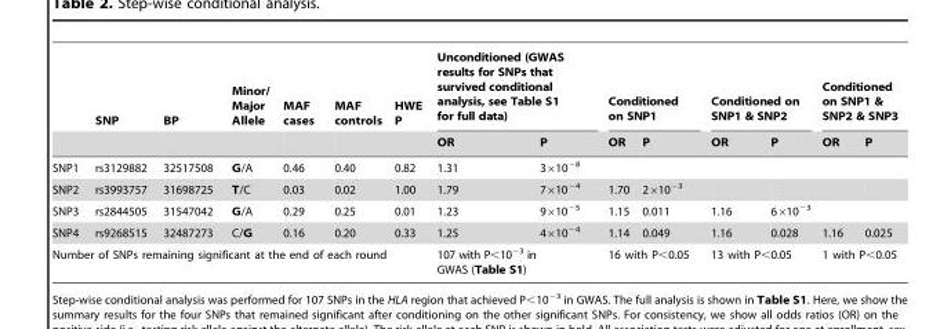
<table><thead><tr><td rowspan="2"></td><td rowspan="2">SNP</td><td rowspan="2">BP</td><td rowspan="2">Minor/ Major Allele</td><td rowspan="2">MAF cases</td><td rowspan="2">MAF controls</td><td rowspan="2">HWE P</td><td colspan="2">Unconditioned (GWAS results for SNPs that survived conditional analysis, see Table S1 for full data)</td><td colspan="2">Conditioned on SNP1</td><td colspan="2">Conditioned on SNP1 &amp; SNP2</td><td colspan="2">Conditioned on SNP1 &amp; SNP2 &amp; SNP3</td></tr><tr><td>OR</td><td>P</td><td>OR</td><td>P</td><td>OR</td><td>P</td><td>OR</td><td>P</td></tr></thead><tbody><tr><td>SNP1</td><td>rs3129882</td><td>32517508</td><td>G/A</td><td>0.46</td><td>0.40</td><td>0.82</td><td>1.31</td><td>3×10<sup>−8</sup></td><td></td><td></td><td></td><td></td><td></td><td></td></tr><tr><td>SNP2</td><td>rs3993757</td><td>31698725</td><td>T/C</td><td>0.03</td><td>0.02</td><td>1.00</td><td>1.79</td><td>7×10<sup>−4</sup></td><td>1.70</td><td>2×10<sup>−3</sup></td><td></td><td></td><td></td><td></td></tr><tr><td>SNP3</td><td>rs2844505</td><td>31547042</td><td>G/A</td><td>0.29</td><td>0.25</td><td>0.01</td><td>1.23</td><td>9×10<sup>−5</sup></td><td>1.15</td><td>0.011</td><td>1.16</td><td>6×10<sup>−3</sup></td><td></td><td></td></tr><tr><td>SNP4</td><td>rs9268515</td><td>32487273</td><td>C/G</td><td>0.16</td><td>0.20</td><td>0.33</td><td>1.25</td><td>4×10<sup>−4</sup></td><td>1.14</td><td>0.049</td><td>1.16</td><td>0.028</td><td>1.16</td><td>0.025</td></tr><tr><td colspan="7">Number of SNPs remaining significant at the end of each round</td><td colspan="2">107 with P&lt;10<sup>−3</sup> in GWAS (Table S1)</td><td colspan="2">16 with P&lt;0.05</td><td colspan="2">13 with P&lt;0.05</td><td colspan="2">1 with P&lt;0.05</td></tr></tbody></table>